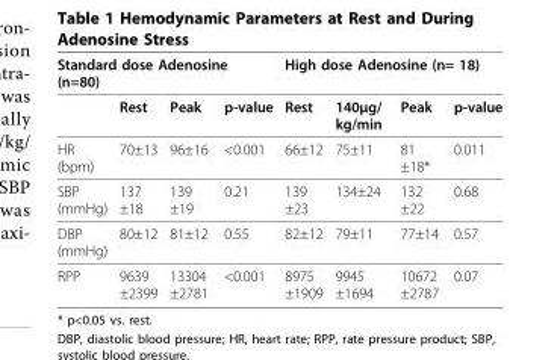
<table><thead><tr><td colspan="4">Standard dose Adenosine (n=80)</td><td colspan="4">High dose Adenosine (n= 18)</td></tr><tr><td></td><td>Rest</td><td>Peak</td><td>p-value</td><td>Rest</td><td>140μg/ kg/min</td><td>Peak</td><td>p-value</td></tr></thead><tbody><tr><td>HR (bpm)</td><td>70±13</td><td>96±16</td><td>&lt;0.001</td><td>66±12</td><td>75±11</td><td>81 ±18*</td><td>0.011</td></tr><tr><td>SBP (mmHg)</td><td>137 ±18</td><td>139 ±19</td><td>0.21</td><td>139 ±23</td><td>134±24</td><td>132 ±22</td><td>0.68</td></tr><tr><td>DBP (mmHg)</td><td>80±12</td><td>81±12</td><td>0.55</td><td>82±12</td><td>79±11</td><td>77±14</td><td>0.57</td></tr><tr><td>RPP</td><td>9639 ±2399</td><td>13304 ±2781</td><td>&lt;0.001</td><td>8975 ±1909</td><td>9945 ±1694</td><td>10672 ±2787</td><td>0.07</td></tr></tbody></table>